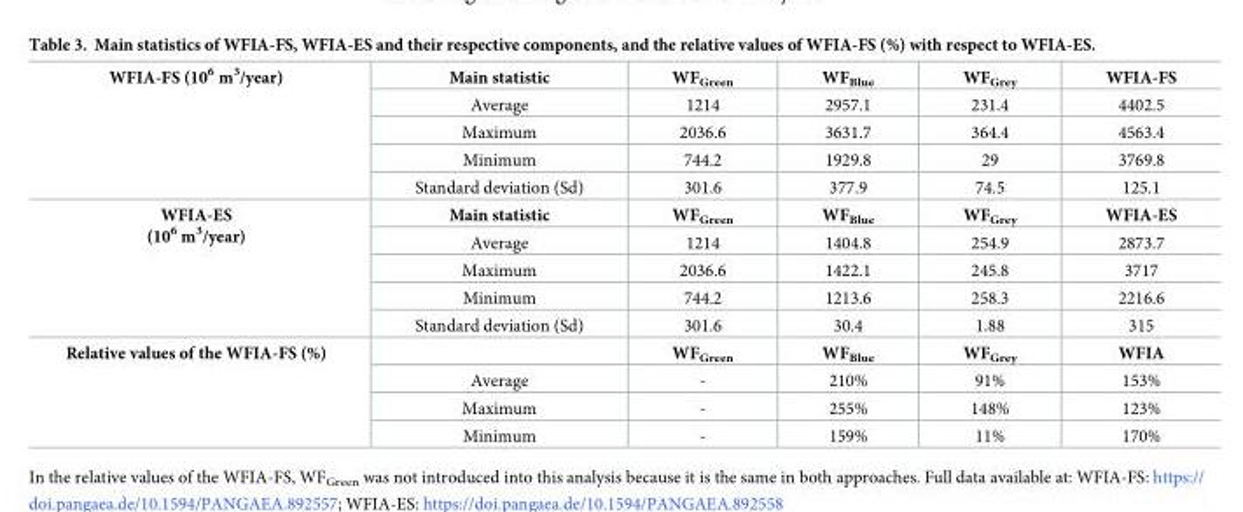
<table><tbody><tr><td rowspan="5">WFIA-FS (10<sup>6</sup> m<sup>3</sup>/year)</td><td>Main statistic</td><td>WF<sub>Green</sub></td><td>WF<sub>Blue</sub></td><td>WF<sub>Grey</sub></td><td>WFIA-FS</td></tr><tr><td>Average</td><td>1214</td><td>2957.1</td><td>231.4</td><td>4402.5</td></tr><tr><td>Maximum</td><td>2036.6</td><td>3631.7</td><td>364.4</td><td>4563.4</td></tr><tr><td>Minimum</td><td>744.2</td><td>1929.8</td><td>29</td><td>3769.8</td></tr><tr><td>Standard deviation (Sd)</td><td>301.6</td><td>377.9</td><td>74.5</td><td>125.1</td></tr><tr><td rowspan="5">WFIA-ES (10<sup>6</sup> m<sup>3</sup>/year)</td><td>Main statistic</td><td>WF<sub>Green</sub></td><td>WF<sub>Blue</sub></td><td>WF<sub>Grey</sub></td><td>WFIA-ES</td></tr><tr><td>Average</td><td>1214</td><td>1404.8</td><td>254.9</td><td>2873.7</td></tr><tr><td>Maximum</td><td>2036.6</td><td>1422.1</td><td>245.8</td><td>3717</td></tr><tr><td>Minimum</td><td>744.2</td><td>1213.6</td><td>258.3</td><td>2216.6</td></tr><tr><td>Standard deviation (Sd)</td><td>301.6</td><td>30.4</td><td>1.88</td><td>315</td></tr><tr><td rowspan="4">Relative values of the WFIA-FS (%)</td><td></td><td>WF<sub>Green</sub></td><td>WF<sub>Blue</sub></td><td>WF<sub>Grey</sub></td><td>WFIA</td></tr><tr><td>Average</td><td>-</td><td>210%</td><td>91%</td><td>153%</td></tr><tr><td>Maximum</td><td>-</td><td>255%</td><td>148%</td><td>123%</td></tr><tr><td>Minimum</td><td>-</td><td>159%</td><td>11%</td><td>170%</td></tr></tbody></table>